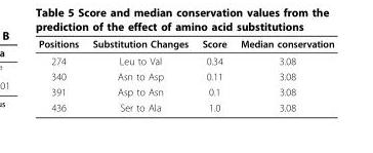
<table><thead><tr><td>Positions</td><td>Substitution Changes</td><td>Score</td><td>Median conservation</td></tr></thead><tbody><tr><td>274</td><td>Leu to Val</td><td>0.34</td><td>3.08</td></tr><tr><td>340</td><td>Asn to Asp</td><td>0.11</td><td>3.08</td></tr><tr><td>391</td><td>Asp to Asn</td><td>0.1</td><td>3.08</td></tr><tr><td>436</td><td>Ser to Ala</td><td>1.0</td><td>3.08</td></tr></tbody></table>